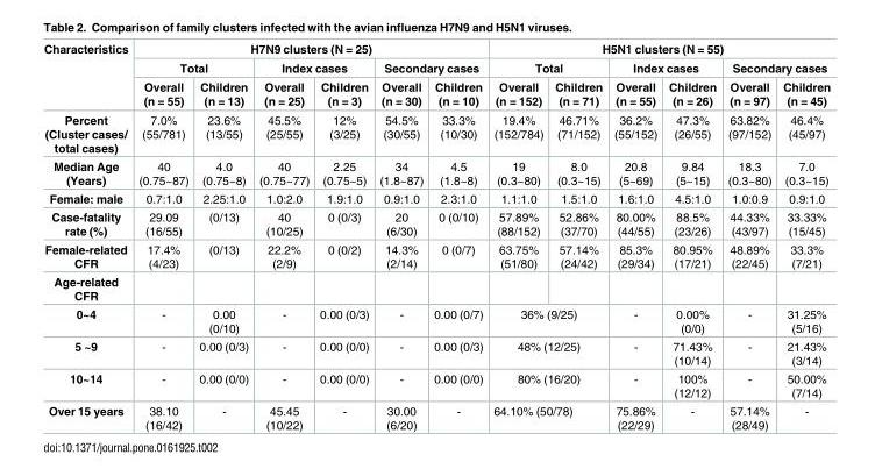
<table><thead><tr><td rowspan="3">Characteristics</td><td colspan="6">H7N9 clusters (N = 25)</td><td colspan="6">H5N1 clusters (N = 55)</td></tr><tr><td colspan="2">Total</td><td colspan="2">Index cases</td><td colspan="2">Secondary cases</td><td colspan="2">Total</td><td colspan="2">Index cases</td><td colspan="2">Secondary cases</td></tr><tr><td>Overall (n = 55)</td><td>Children (n = 13)</td><td>Overall (n = 25)</td><td>Children (n = 3)</td><td>Overall (n = 30)</td><td>Children (n = 10)</td><td>Overall (n = 152)</td><td>Children (n = 71)</td><td>Overall (n = 55)</td><td>Children (n = 26)</td><td>Overall (n = 97)</td><td>Children (n = 45)</td></tr></thead><tbody><tr><td>Percent (Cluster cases/ total cases)</td><td>7.0% (55/781)</td><td>23.6% (13/55)</td><td>45.5% (25/55)</td><td>12% (3/25)</td><td>54.5% (30/55)</td><td>33.3% (10/30)</td><td>19.4% (152/784)</td><td>46.71% (71/152)</td><td>36.2% (55/152)</td><td>47.3% (26/55)</td><td>63.82% (97/152)</td><td>46.4% (45/97)</td></tr><tr><td>Median Age (Years)</td><td>40 (0.75~87)</td><td>4.0 (0.75~8)</td><td>40 (0.75~77)</td><td>2.25 (0.75~5)</td><td>34 (1.8~87)</td><td>4.5 (1.8~8)</td><td>19 (0.3~80)</td><td>8.0 (0.3~15)</td><td>20.8 (5~69)</td><td>9.84 (5~15)</td><td>18.3 (0.3~80)</td><td>7.0 (0.3~15)</td></tr><tr><td>Female: male</td><td>0.7:1.0</td><td>2.25:1.0</td><td>1.0:2.0</td><td>1.9:1.0</td><td>0.9:1.0</td><td>2.3:1.0</td><td>1.1:1.0</td><td>1.5:1.0</td><td>1.6:1.0</td><td>4.5:1.0</td><td>1.0:0.9</td><td>0.9:1.0</td></tr><tr><td>Case-fatality rate (%)</td><td>29.09 (16/55)</td><td>(0/13)</td><td>40 (10/25)</td><td>0 (0/3)</td><td>20 (6/30)</td><td>0 (0/10)</td><td>57.89% (88/152)</td><td>52.86% (37/70)</td><td>80.00% (44/55)</td><td>88.5% (23/26)</td><td>44.33% (43/97)</td><td>33.33% (15/45)</td></tr><tr><td>Female-related CFR</td><td>17.4% (4/23)</td><td>(0/13)</td><td>22.2% (2/9)</td><td>0 (0/2)</td><td>14.3% (2/14)</td><td>0 (0/7)</td><td>63.75% (51/80)</td><td>57.14% (24/42)</td><td>85.3% (29/34)</td><td>80.95% (17/21)</td><td>48.89% (22/45)</td><td>33.3% (7/21)</td></tr><tr><td colspan="13">Age-related CFR</td></tr><tr><td>0~4</td><td>-</td><td>0.00 (0/10)</td><td>-</td><td>0.00 (0/3)</td><td>-</td><td>0.00 (0/7)</td><td colspan="2">36% (9/25)</td><td>-</td><td>0.00% (0/0)</td><td>-</td><td>31.25% (5/16)</td></tr><tr><td>5 ~9</td><td>-</td><td>0.00 (0/3)</td><td>-</td><td>0.00 (0/0)</td><td>-</td><td>0.00 (0/3)</td><td colspan="2">48% (12/25)</td><td>-</td><td>71.43% (10/14)</td><td>-</td><td>21.43% (3/14)</td></tr><tr><td>10~14</td><td>-</td><td>0.00 (0/0)</td><td>-</td><td>0.00 (0/0)</td><td>-</td><td>0.00 (0/0)</td><td colspan="2">80% (16/20)</td><td>-</td><td>100% (12/12)</td><td>-</td><td>50.00% (7/14)</td></tr><tr><td>Over 15 years</td><td>38.10 (16/42)</td><td>-</td><td>45.45 (10/22)</td><td>-</td><td>30.00 (6/20)</td><td>-</td><td colspan="2">64.10% (50/78)</td><td>75.86% (22/29)</td><td>-</td><td>57.14% (28/49)</td><td>-</td></tr></tbody></table>